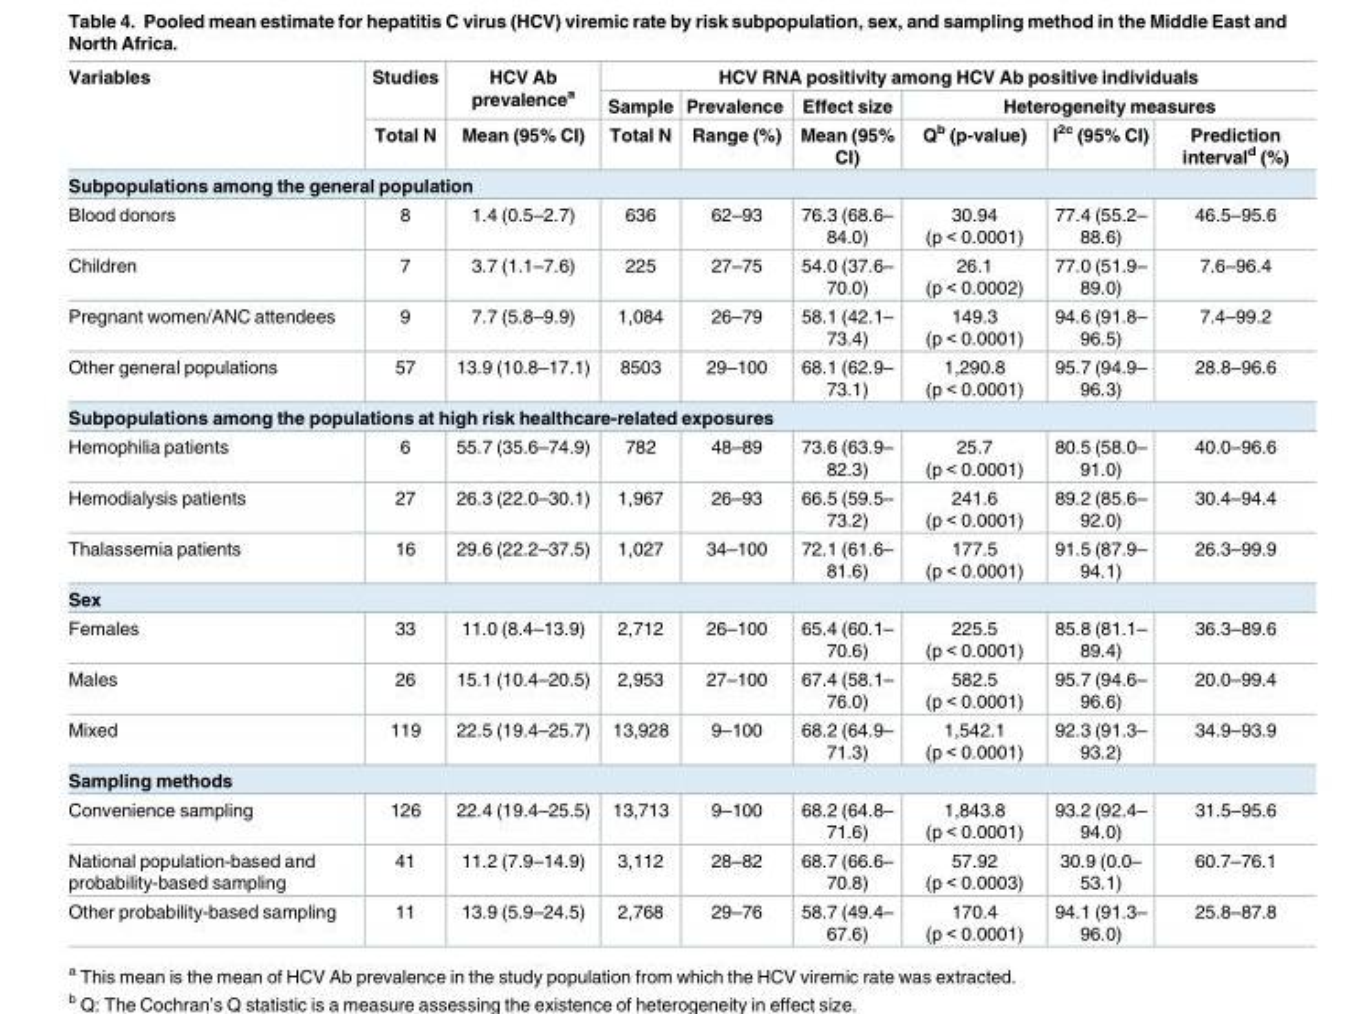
<table><thead><tr><td rowspan="3">Variables</td><td rowspan="3">Studies Total N</td><td rowspan="3">HCV Ab prevalence<sup>a</sup> Mean (95% CI)</td><td colspan="6">HCV RNA positivity among HCV Ab positive individuals</td></tr><tr><td rowspan="2">Sample Total N</td><td rowspan="2">Prevalence Range (%)</td><td rowspan="2">Effect size Mean (95% CI)</td><td colspan="3">Heterogeneity measures</td></tr><tr><td>Q<sup>b</sup> (p-value)</td><td>I<sup>2c</sup> (95% CI)</td><td>Prediction interval<sup>d</sup> (%)</td></tr></thead><tbody><tr><td colspan="9">Subpopulations among the general population</td></tr><tr><td>Blood donors</td><td>8</td><td>1.4 (0.5–2.7)</td><td>636</td><td>62–93</td><td>76.3 (68.6– 84.0)</td><td>30.94 (p &lt; 0.0001)</td><td>77.4 (55.2– 88.6)</td><td>46.5–95.6</td></tr><tr><td>Children</td><td>7</td><td>3.7 (1.1–7.6)</td><td>225</td><td>27–75</td><td>54.0 (37.6– 70.0)</td><td>26.1 (p &lt; 0.0002)</td><td>77.0 (51.9– 89.0)</td><td>7.6–96.4</td></tr><tr><td>Pregnant women/ANC attendees</td><td>9</td><td>7.7 (5.8–9.9)</td><td>1,084</td><td>26–79</td><td>58.1 (42.1– 73.4)</td><td>149.3 (p &lt; 0.0001)</td><td>94.6 (91.8– 96.5)</td><td>7.4–99.2</td></tr><tr><td>Other general populations</td><td>57</td><td>13.9 (10.8–17.1)</td><td>8503</td><td>29–100</td><td>68.1 (62.9– 73.1)</td><td>1,290.8 (p &lt; 0.0001)</td><td>95.7 (94.9– 96.3)</td><td>28.8–96.6</td></tr><tr><td colspan="9">Subpopulations among the populations at high risk healthcare-related exposures</td></tr><tr><td>Hemophilia patients</td><td>6</td><td>55.7 (35.6–74.9)</td><td>782</td><td>48–89</td><td>73.6 (63.9– 82.3)</td><td>25.7 (p &lt; 0.0001)</td><td>80.5 (58.0– 91.0)</td><td>40.0–96.6</td></tr><tr><td>Hemodialysis patients</td><td>27</td><td>26.3 (22.0–30.1)</td><td>1,967</td><td>26–93</td><td>66.5 (59.5– 73.2)</td><td>241.6 (p &lt; 0.0001)</td><td>89.2 (85.6– 92.0)</td><td>30.4–94.4</td></tr><tr><td>Thalassemia patients</td><td>16</td><td>29.6 (22.2–37.5)</td><td>1,027</td><td>34–100</td><td>72.1 (61.6– 81.6)</td><td>177.5 (p &lt; 0.0001)</td><td>91.5 (87.9– 94.1)</td><td>26.3–99.9</td></tr><tr><td colspan="9">Sex</td></tr><tr><td>Females</td><td>33</td><td>11.0 (8.4–13.9)</td><td>2,712</td><td>26–100</td><td>65.4 (60.1– 70.6)</td><td>225.5 (p &lt; 0.0001)</td><td>85.8 (81.1– 89.4)</td><td>36.3–89.6</td></tr><tr><td>Males</td><td>26</td><td>15.1 (10.4–20.5)</td><td>2,953</td><td>27–100</td><td>67.4 (58.1– 76.0)</td><td>582.5 (p &lt; 0.0001)</td><td>95.7 (94.6– 96.6)</td><td>20.0–99.4</td></tr><tr><td>Mixed</td><td>119</td><td>22.5 (19.4–25.7)</td><td>13,928</td><td>9–100</td><td>68.2 (64.9– 71.3)</td><td>1,542.1 (p &lt; 0.0001)</td><td>92.3 (91.3– 93.2)</td><td>34.9–93.9</td></tr><tr><td colspan="9">Sampling methods</td></tr><tr><td>Convenience sampling</td><td>126</td><td>22.4 (19.4–25.5)</td><td>13,713</td><td>9–100</td><td>68.2 (64.8– 71.6)</td><td>1,843.8 (p &lt; 0.0001)</td><td>93.2 (92.4– 94.0)</td><td>31.5–95.6</td></tr><tr><td>National population-based and probability-based sampling</td><td>41</td><td>11.2 (7.9–14.9)</td><td>3,112</td><td>28–82</td><td>68.7 (66.6– 70.8)</td><td>57.92 (p &lt; 0.0003)</td><td>30.9 (0.0– 53.1)</td><td>60.7–76.1</td></tr><tr><td>Other probability-based sampling</td><td>11</td><td>13.9 (5.9–24.5)</td><td>2,768</td><td>29–76</td><td>58.7 (49.4– 67.6)</td><td>170.4 (p &lt; 0.0001)</td><td>94.1 (91.3– 96.0)</td><td>25.8–87.8</td></tr></tbody></table>